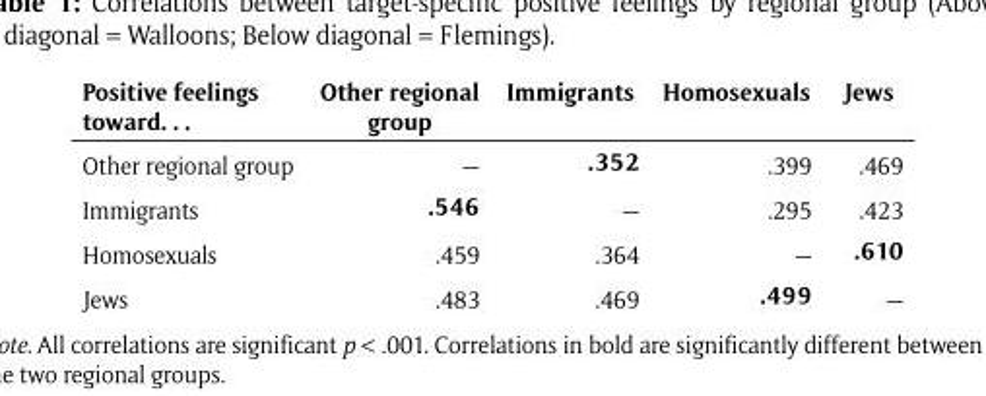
<table><thead><tr><td>Positive feelings toward. . .</td><td>Other regional group</td><td>Immigrants</td><td>Homosexuals</td><td>Jews</td></tr></thead><tbody><tr><td>Other regional group</td><td>—</td><td>.352</td><td>.399</td><td>.469</td></tr><tr><td>Immigrants</td><td>.546</td><td>—</td><td>.295</td><td>.423</td></tr><tr><td>Homosexuals</td><td>.459</td><td>.364</td><td>—</td><td>.610</td></tr><tr><td>Jews</td><td>.483</td><td>.469</td><td>.499</td><td>—</td></tr></tbody></table>